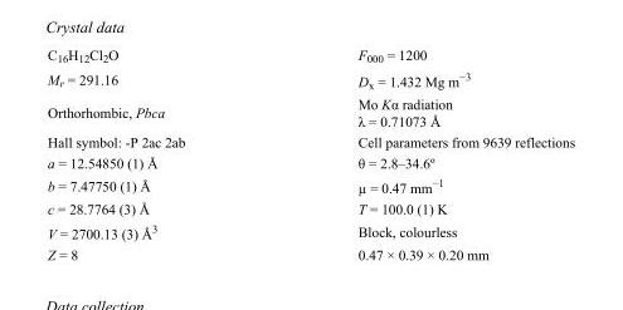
<table><tbody><tr><td>C<sub>16</sub>H<sub>12</sub>Cl<sub>2</sub>O</td><td>F<sub>000</sub> = 1200</td></tr><tr><td>M<sub>r</sub> = 291.16</td><td>D<sub>x</sub> = 1.432 Mg m<sup>−3</sup></td></tr><tr><td>Orthorhombic, Pbca</td><td>Mo Kα radiation λ = 0.71073 Å</td></tr><tr><td>Hall symbol: -P 2ac 2ab</td><td>Cell parameters from 9639 reflections</td></tr><tr><td>a = 12.54850 (1) Å</td><td>θ = 2.8–34.6º</td></tr><tr><td>b = 7.47750 (1) Å</td><td>µ = 0.47 mm<sup>−1</sup></td></tr><tr><td>c = 28.7764 (3) Å</td><td>T = 100.0 (1) K</td></tr><tr><td>V = 2700.13 (3) Å<sup>3</sup></td><td>Block, colourless</td></tr><tr><td>Z = 8</td><td>0.47 × 0.39 × 0.20 mm</td></tr></tbody></table>